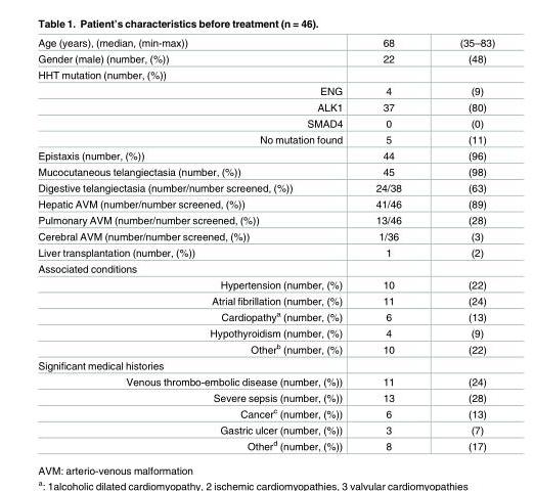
<table><tbody><tr><td>Age (years), (median, (min-max))</td><td>68</td><td>(35–83)</td></tr><tr><td>Gender (male) (number, (%))</td><td>22</td><td>(48)</td></tr><tr><td colspan="3">HHT mutation (number, (%))</td></tr><tr><td>ENG</td><td>4</td><td>(9)</td></tr><tr><td>ALK1</td><td>37</td><td>(80)</td></tr><tr><td>SMAD4</td><td>0</td><td>(0)</td></tr><tr><td>No mutation found</td><td>5</td><td>(11)</td></tr><tr><td>Epistaxis (number, (%))</td><td>44</td><td>(96)</td></tr><tr><td>Mucocutaneous telangiectasia (number, (%))</td><td>45</td><td>(98)</td></tr><tr><td>Digestive telangiectasia (number/number screened, (%))</td><td>24/38</td><td>(63)</td></tr><tr><td>Hepatic AVM (number/number screened, (%))</td><td>41/46</td><td>(89)</td></tr><tr><td>Pulmonary AVM (number/number screened, (%))</td><td>13/46</td><td>(28)</td></tr><tr><td>Cerebral AVM (number/number screened, (%))</td><td>1/36</td><td>(3)</td></tr><tr><td>Liver transplantation (number, (%))</td><td>1</td><td>(2)</td></tr><tr><td colspan="3">Associated conditions</td></tr><tr><td>Hypertension (number, (%)</td><td>10</td><td>(22)</td></tr><tr><td>Atrial fibrillation (number, (%)</td><td>11</td><td>(24)</td></tr><tr><td>Cardiopathy<sup>a</sup> (number, (%)</td><td>6</td><td>(13)</td></tr><tr><td>Hypothyroidism (number, (%)</td><td>4</td><td>(9)</td></tr><tr><td>Other<sup>b</sup> (number, (%)</td><td>10</td><td>(22)</td></tr><tr><td colspan="3">Significant medical histories</td></tr><tr><td>Venous thrombo-embolic disease (number, (%))</td><td>11</td><td>(24)</td></tr><tr><td>Severe sepsis (number, (%))</td><td>13</td><td>(28)</td></tr><tr><td>Cancer<sup>c</sup> (number, (%))</td><td>6</td><td>(13)</td></tr><tr><td>Gastric ulcer (number, (%))</td><td>3</td><td>(7)</td></tr><tr><td>Other<sup>d</sup> (number, (%))</td><td>8</td><td>(17)</td></tr></tbody></table>